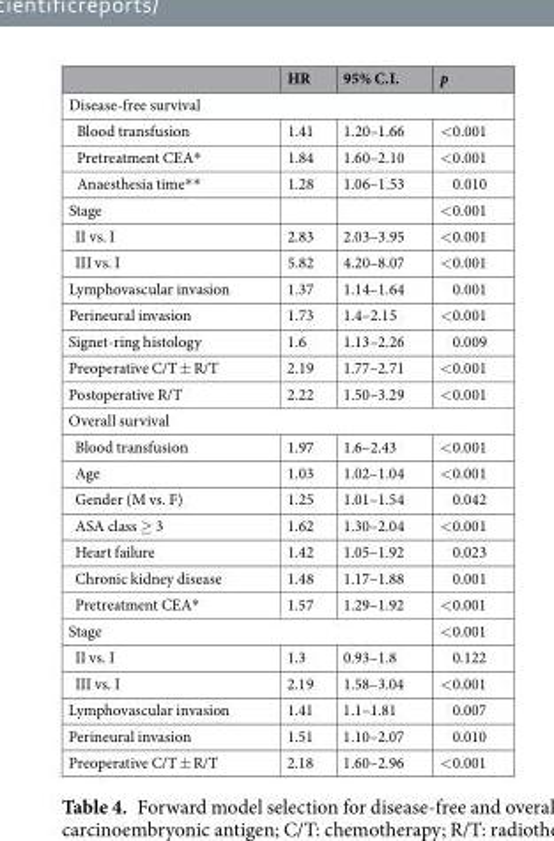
<table><thead><tr><td></td><td>HR</td><td>95% C.I.</td><td>p</td></tr></thead><tbody><tr><td colspan="4">Disease-free survival</td></tr><tr><td>Blood transfusion</td><td>1.41</td><td>1.20–1.66</td><td>&lt;0.001</td></tr><tr><td>Pretreatment CEA*</td><td>1.84</td><td>1.60–2.10</td><td>&lt;0.001</td></tr><tr><td>Anaesthesia time**</td><td>1.28</td><td>1.06–1.53</td><td>0.010</td></tr><tr><td>Stage</td><td></td><td></td><td>&lt;0.001</td></tr><tr><td>II vs. I</td><td>2.83</td><td>2.03–3.95</td><td>&lt;0.001</td></tr><tr><td>III vs. I</td><td>5.82</td><td>4.20–8.07</td><td>&lt;0.001</td></tr><tr><td>Lymphovascular invasion</td><td>1.37</td><td>1.14–1.64</td><td>0.001</td></tr><tr><td>Perineural invasion</td><td>1.73</td><td>1.4–2.15</td><td>&lt;0.001</td></tr><tr><td>Signet-ring histology</td><td>1.6</td><td>1.13–2.26</td><td>0.009</td></tr><tr><td>Preoperative C/T ± R/T</td><td>2.19</td><td>1.77–2.71</td><td>&lt;0.001</td></tr><tr><td>Postoperative R/T</td><td>2.22</td><td>1.50–3.29</td><td>&lt;0.001</td></tr><tr><td colspan="4">Overall survival</td></tr><tr><td>Blood transfusion</td><td>1.97</td><td>1.6–2.43</td><td>&lt;0.001</td></tr><tr><td>Age</td><td>1.03</td><td>1.02–1.04</td><td>&lt;0.001</td></tr><tr><td>Gender (M vs. F)</td><td>1.25</td><td>1.01–1.54</td><td>0.042</td></tr><tr><td>ASA class ≥ 3</td><td>1.62</td><td>1.30–2.04</td><td>&lt;0.001</td></tr><tr><td>Heart failure</td><td>1.42</td><td>1.05–1.92</td><td>0.023</td></tr><tr><td>Chronic kidney disease</td><td>1.48</td><td>1.17–1.88</td><td>0.001</td></tr><tr><td>Pretreatment CEA*</td><td>1.57</td><td>1.29–1.92</td><td>&lt;0.001</td></tr><tr><td colspan="3">Stage</td><td>&lt;0.001</td></tr><tr><td>II vs. I</td><td>1.3</td><td>0.93–1.8</td><td>0.122</td></tr><tr><td>III vs. I</td><td>2.19</td><td>1.58–3.04</td><td>&lt;0.001</td></tr><tr><td>Lymphovascular invasion</td><td>1.41</td><td>1.1–1.81</td><td>0.007</td></tr><tr><td>Perineural invasion</td><td>1.51</td><td>1.10–2.07</td><td>0.010</td></tr><tr><td>Preoperative C/T ± R/T</td><td>2.18</td><td>1.60–2.96</td><td>&lt;0.001</td></tr></tbody></table>